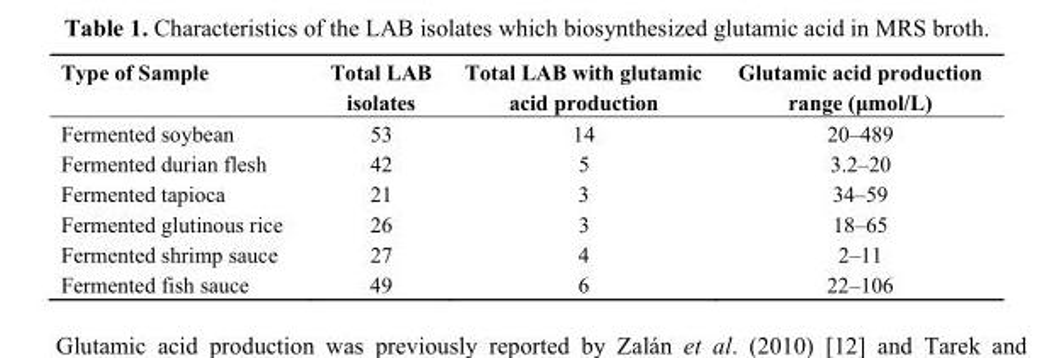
<table><thead><tr><td>Type of Sample</td><td>Total LAB isolates</td><td>Total LAB with glutamic acid production</td><td>Glutamic acid production range (μmol/L)</td></tr></thead><tbody><tr><td>Fermented soybean</td><td>53</td><td>14</td><td>20–489</td></tr><tr><td>Fermented durian flesh</td><td>42</td><td>5</td><td>3.2–20</td></tr><tr><td>Fermented tapioca</td><td>21</td><td>3</td><td>34–59</td></tr><tr><td>Fermented glutinous rice</td><td>26</td><td>3</td><td>18–65</td></tr><tr><td>Fermented shrimp sauce</td><td>27</td><td>4</td><td>2–11</td></tr><tr><td>Fermented fish sauce</td><td>49</td><td>6</td><td>22–106</td></tr></tbody></table>